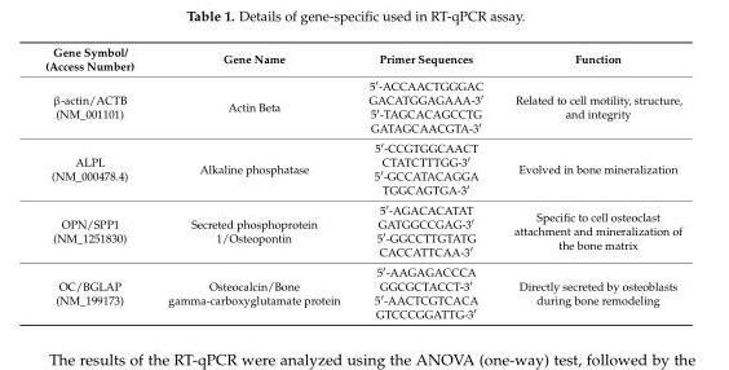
<table><thead><tr><td>Gene Symbol/ (Access Number)</td><td>Gene Name</td><td>Primer Sequences</td><td>Function</td></tr></thead><tbody><tr><td>β-actin/ACTB (NM_001101)</td><td>Actin Beta</td><td>5′-ACCAACTGGGAC GACATGGAGAAA-3′ 5′-TAGCACAGCCTG GATAGCAACGTA-3′</td><td>Related to cell motility, structure, and integrity</td></tr><tr><td>ALPL (NM_000478.4)</td><td>Alkaline phosphatase</td><td>5′-CCGTGGCAACT CTATCTTTGG-3′ 5′-GCCATACAGGA TGGCAGTGA-3′</td><td>Evolved in bone mineralization</td></tr><tr><td>OPN/SPP1 (NM_1251830)</td><td>Secreted phosphoprotein 1/Osteopontin</td><td>5′-AGACACATAT GATGGCCGAG-3′ 5′-GGCCTTGTATG CACCATTCAA-3′</td><td>Specific to cell osteoclast attachment and mineralization of the bone matrix</td></tr><tr><td>OC/BGLAP (NM_199173)</td><td>Osteocalcin/Bone gamma-carboxyglutamate protein</td><td>5′-AAGAGACCCA GGCGCTACCT-3′ 5′-AACTCGTCACA GTCCCGGATTG-3′</td><td>Directly secreted by osteoblasts during bone remodeling</td></tr></tbody></table>